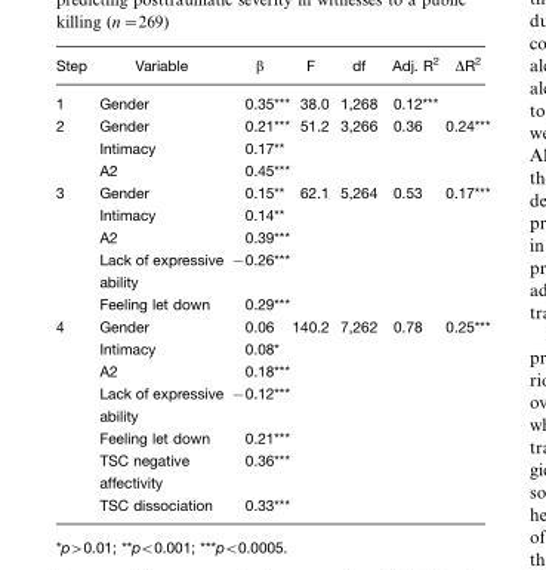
<table><thead><tr><td>Step</td><td>Variable</td><td>β</td><td>F</td><td>df</td><td>Adj. R<sup>2</sup></td><td>ΔR<sup>2</sup></td></tr></thead><tbody><tr><td>1</td><td>Gender</td><td>0.35***</td><td>38.0</td><td>1,268</td><td>0.12***</td><td></td></tr><tr><td rowspan="3">2</td><td>Gender</td><td>0.21***</td><td>51.2</td><td>3,266</td><td>0.36</td><td>0.24***</td></tr><tr><td>Intimacy</td><td>0.17**</td><td></td><td></td><td></td><td></td></tr><tr><td>A2</td><td>0.45***</td><td></td><td></td><td></td><td></td></tr><tr><td rowspan="5">3</td><td>Gender</td><td>0.15**</td><td>62.1</td><td>5,264</td><td>0.53</td><td>0.17***</td></tr><tr><td>Intimacy</td><td>0.14**</td><td></td><td></td><td></td><td></td></tr><tr><td>A2</td><td>0.39***</td><td></td><td></td><td></td><td></td></tr><tr><td>Lack of expressive ability</td><td>−0.26***</td><td></td><td></td><td></td><td></td></tr><tr><td>Feeling let down</td><td>0.29***</td><td></td><td></td><td></td><td></td></tr><tr><td rowspan="7">4</td><td>Gender</td><td>0.06</td><td>140.2</td><td>7,262</td><td>0.78</td><td>0.25***</td></tr><tr><td>Intimacy</td><td>0.08*</td><td></td><td></td><td></td><td></td></tr><tr><td>A2</td><td>0.18***</td><td></td><td></td><td></td><td></td></tr><tr><td>Lack of expressive ability</td><td>−0.12***</td><td></td><td></td><td></td><td></td></tr><tr><td>Feeling let down</td><td>0.21***</td><td></td><td></td><td></td><td></td></tr><tr><td>TSC negative affectivity</td><td>0.36***</td><td></td><td></td><td></td><td></td></tr><tr><td>TSC dissociation</td><td>0.33***</td><td></td><td></td><td></td><td></td></tr></tbody></table>